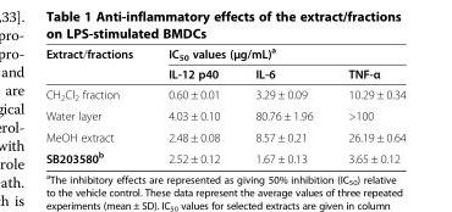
<table><thead><tr><td rowspan="2">Extract/fractions</td><td colspan="3">IC<sub>50</sub> values (μg/mL)<sup>a</sup></td></tr><tr><td>IL-12 p40</td><td>IL-6</td><td>TNF-α</td></tr></thead><tbody><tr><td>CH<sub>2</sub>Cl<sub>2</sub> fraction</td><td>0.60 ± 0.01</td><td>3.29 ± 0.09</td><td>10.29 ± 0.34</td></tr><tr><td>Water layer</td><td>4.03 ± 0.10</td><td>80.76 ± 1.96</td><td>&gt;100</td></tr><tr><td>MeOH extract</td><td>2.48 ± 0.08</td><td>8.57 ± 0.21</td><td>26.19 ± 0.64</td></tr><tr><td>SB203580<sup>b</sup></td><td>2.52 ± 0.12</td><td>1.67 ± 0.13</td><td>3.65 ± 0.12</td></tr></tbody></table>